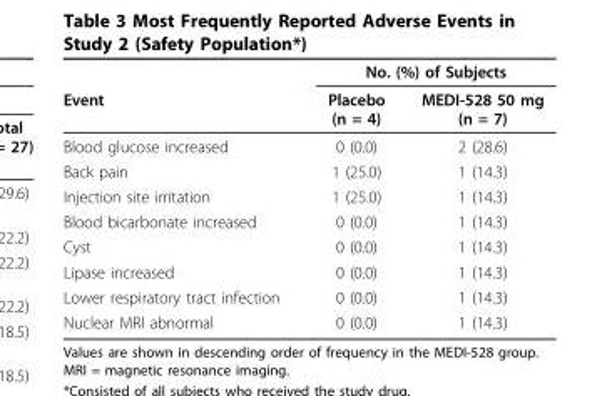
<table><thead><tr><td rowspan="2">Event</td><td colspan="2">No. (%) of Subjects</td></tr><tr><td>Placebo (n = 4)</td><td>MEDI-528 50 mg (n = 7)</td></tr></thead><tbody><tr><td>Blood glucose increased</td><td>0 (0.0)</td><td>2 (28.6)</td></tr><tr><td>Back pain</td><td>1 (25.0)</td><td>1 (14.3)</td></tr><tr><td>Injection site irritation</td><td>1 (25.0)</td><td>1 (14.3)</td></tr><tr><td>Blood bicarbonate increased</td><td>0 (0.0)</td><td>1 (14.3)</td></tr><tr><td>Cyst</td><td>0 (0.0)</td><td>1 (14.3)</td></tr><tr><td>Lipase increased</td><td>0 (0.0)</td><td>1 (14.3)</td></tr><tr><td>Lower respiratory tract infection</td><td>0 (0.0)</td><td>1 (14.3)</td></tr><tr><td>Nuclear MRI abnormal</td><td>0 (0.0)</td><td>1 (14.3)</td></tr></tbody></table>